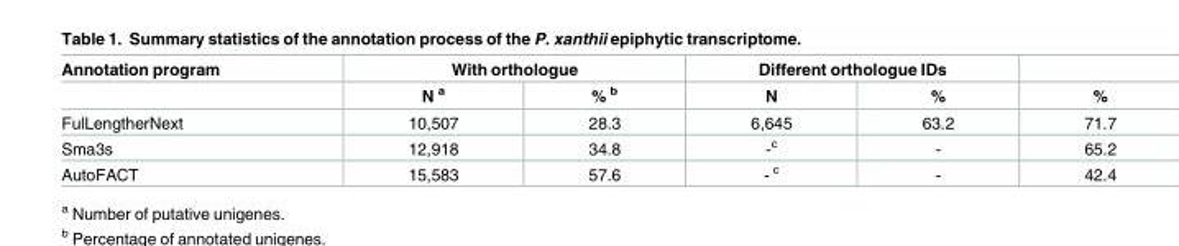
<table><thead><tr><td rowspan="2">Annotation program</td><td colspan="2">With orthologue</td><td colspan="2">Different orthologue IDs</td><td rowspan="2">%</td></tr><tr><td>N <sup>a</sup></td><td>% <sup>b</sup></td><td>N</td><td>%</td></tr></thead><tbody><tr><td>FulLengtherNext</td><td>10,507</td><td>28.3</td><td>6,645</td><td>63.2</td><td>71.7</td></tr><tr><td>Sma3s</td><td>12,918</td><td>34.8</td><td>-<sup>c</sup></td><td>-</td><td>65.2</td></tr><tr><td>AutoFACT</td><td>15,583</td><td>57.6</td><td>- <sup>c</sup></td><td>-</td><td>42.4</td></tr></tbody></table>